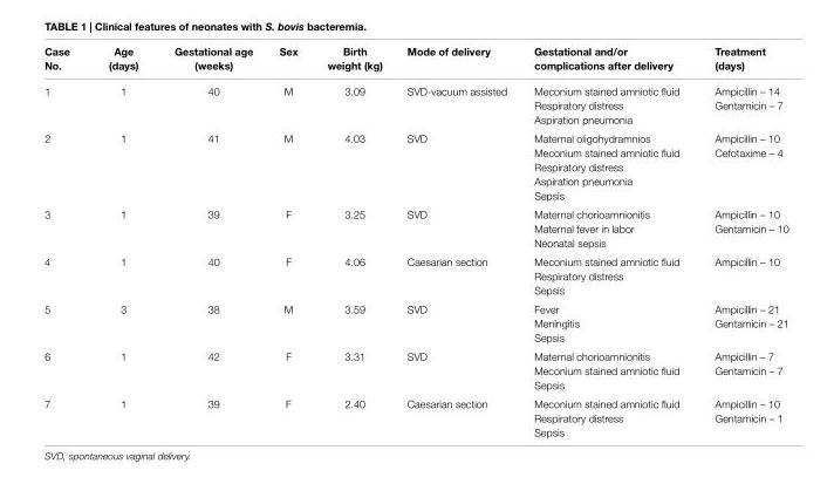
<table><thead><tr><td>case no.</td><td>age (days)</td><td>gestational age (weeks)</td><td>sex</td><td>Birth weight (kg)</td><td>Mode of delivery</td><td>gestational and/or complications after delivery</td><td>Treatment (days)</td></tr></thead><tbody><tr><td rowspan="3">1</td><td rowspan="3">1</td><td rowspan="3">40</td><td rowspan="3">M</td><td rowspan="3">3.09</td><td rowspan="3">SVD-vacuum assisted</td><td>Meconium stained amniotic fluid</td><td>Ampicillin – 14</td></tr><tr><td>Respiratory distress</td><td rowspan="2">Gentamicin – 7</td></tr><tr><td>Aspiration pneumonia</td></tr><tr><td rowspan="5">2</td><td rowspan="5">1</td><td rowspan="5">41</td><td rowspan="5">M</td><td rowspan="5">4.03</td><td rowspan="5">SVD</td><td>Maternal oligohydramnios</td><td>Ampicillin – 10</td></tr><tr><td>Meconium stained amniotic fluid</td><td rowspan="4">Cefotaxime – 4</td></tr><tr><td>Respiratory distress</td></tr><tr><td>Aspiration pneumonia</td></tr><tr><td>Sepsis</td></tr><tr><td rowspan="3">3</td><td rowspan="3">1</td><td rowspan="3">39</td><td rowspan="3">F</td><td rowspan="3">3.25</td><td rowspan="3">SVD</td><td>Maternal chorioamnionitis</td><td>Ampicillin – 10</td></tr><tr><td>Maternal fever in labor</td><td rowspan="2">Gentamicin – 10</td></tr><tr><td>Neonatal sepsis</td></tr><tr><td rowspan="3">4</td><td rowspan="3">1</td><td rowspan="3">40</td><td rowspan="3">F</td><td rowspan="3">4.06</td><td rowspan="3">Caesarian section</td><td>Meconium stained amniotic fluid</td><td rowspan="3">Ampicillin – 10</td></tr><tr><td>Respiratory distress</td></tr><tr><td>Sepsis</td></tr><tr><td rowspan="3">5</td><td rowspan="3">3</td><td rowspan="3">38</td><td rowspan="3">M</td><td rowspan="3">3.59</td><td rowspan="3">SVD</td><td>Fever</td><td>Ampicillin – 21</td></tr><tr><td>Meningitis</td><td rowspan="2">Gentamicin – 21</td></tr><tr><td>Sepsis</td></tr><tr><td rowspan="3">6</td><td rowspan="3">1</td><td rowspan="3">42</td><td rowspan="3">F</td><td rowspan="3">3.31</td><td rowspan="3">SVD</td><td>Maternal chorioamnionitis</td><td>Ampicillin – 7</td></tr><tr><td>Meconium stained amniotic fluid</td><td rowspan="2">Gentamicin – 7</td></tr><tr><td>Sepsis</td></tr><tr><td rowspan="3">7</td><td rowspan="3">1</td><td rowspan="3">39</td><td rowspan="3">F</td><td rowspan="3">2.40</td><td rowspan="3">Caesarian section</td><td>Meconium stained amniotic fluid</td><td>Ampicillin – 10</td></tr><tr><td>Respiratory distress</td><td rowspan="2">Gentamicin – 1</td></tr><tr><td>Sepsis</td></tr></tbody></table>